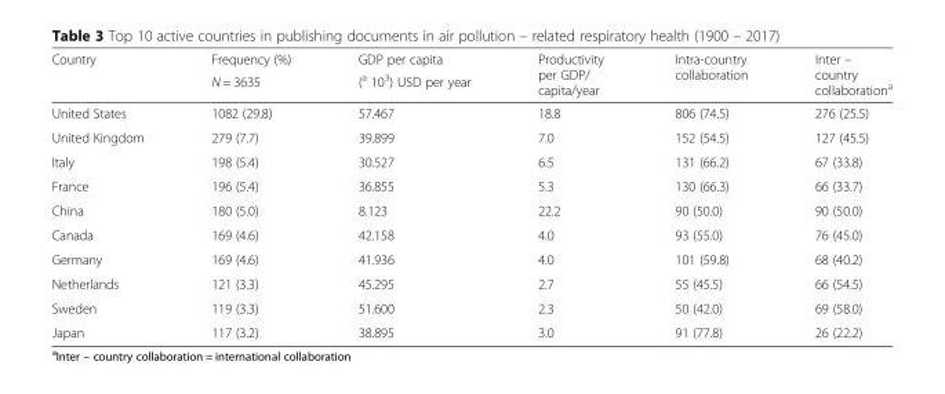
<table><thead><tr><td rowspan="2">Country</td><td rowspan="2">Frequency (%) N = 3635</td><td rowspan="2">GDP per capita (<sup>a</sup> 10<sup>3</sup>) USD per year</td><td rowspan="2">Productivity per GDP/ capita/year</td><td rowspan="2">Intra-country collaboration</td><td rowspan="2">Inter – country collaboration<sup>a</sup></td></tr><tr></tr></thead><tbody><tr><td>United States</td><td>1082 (29.8)</td><td>57.467</td><td>18.8</td><td>806 (74.5)</td><td>276 (25.5)</td></tr><tr><td>United Kingdom</td><td>279 (7.7)</td><td>39.899</td><td>7.0</td><td>152 (54.5)</td><td>127 (45.5)</td></tr><tr><td>Italy</td><td>198 (5.4)</td><td>30.527</td><td>6.5</td><td>131 (66.2)</td><td>67 (33.8)</td></tr><tr><td>France</td><td>196 (5.4)</td><td>36.855</td><td>5.3</td><td>130 (66.3)</td><td>66 (33.7)</td></tr><tr><td>China</td><td>180 (5.0)</td><td>8.123</td><td>22.2</td><td>90 (50.0)</td><td>90 (50.0)</td></tr><tr><td>Canada</td><td>169 (4.6)</td><td>42.158</td><td>4.0</td><td>93 (55.0)</td><td>76 (45.0)</td></tr><tr><td>Germany</td><td>169 (4.6)</td><td>41.936</td><td>4.0</td><td>101 (59.8)</td><td>68 (40.2)</td></tr><tr><td>Netherlands</td><td>121 (3.3)</td><td>45.295</td><td>2.7</td><td>55 (45.5)</td><td>66 (54.5)</td></tr><tr><td>Sweden</td><td>119 (3.3)</td><td>51.600</td><td>2.3</td><td>50 (42.0)</td><td>69 (58.0)</td></tr><tr><td>Japan</td><td>117 (3.2)</td><td>38.895</td><td>3.0</td><td>91 (77.8)</td><td>26 (22.2)</td></tr></tbody></table>